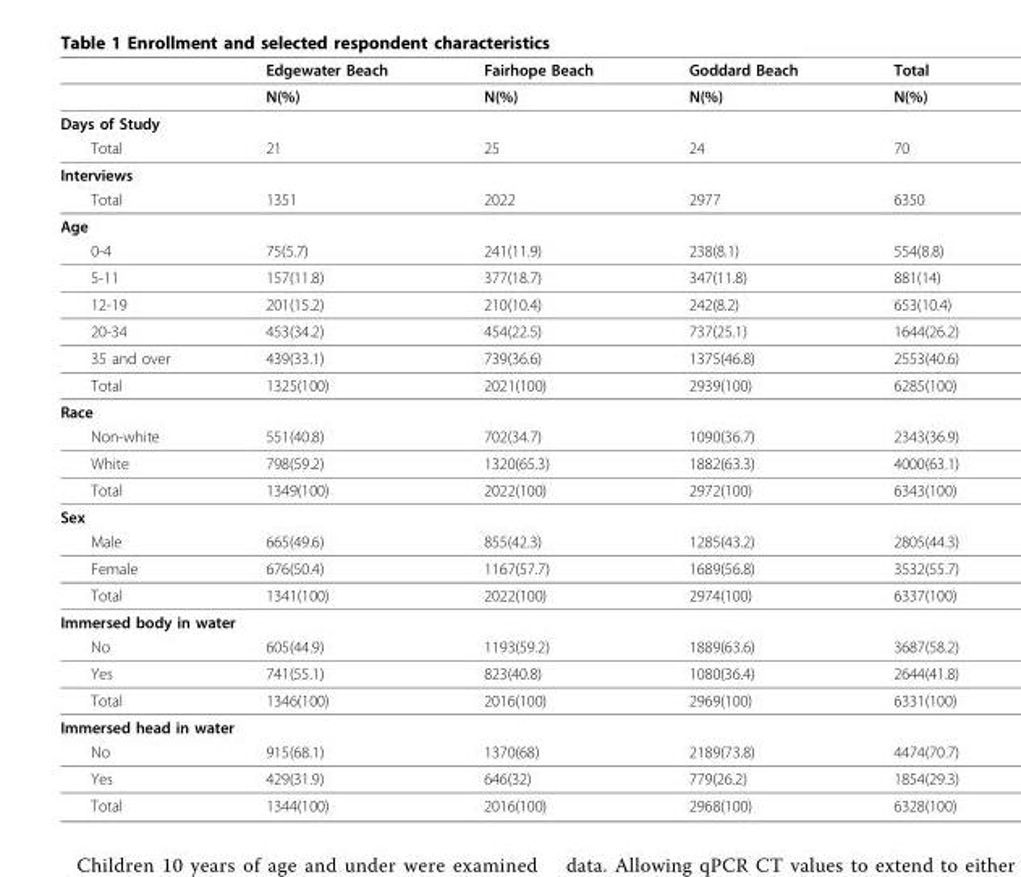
<table><thead><tr><td></td><td>Edgewater Beach</td><td>Fairhope Beach</td><td>Goddard Beach</td><td>Total</td></tr></thead><tbody><tr><td></td><td>N(%)</td><td>N(%)</td><td>N(%)</td><td>N(%)</td></tr><tr><td colspan="5">Days of Study</td></tr><tr><td>Total</td><td>21</td><td>25</td><td>24</td><td>70</td></tr><tr><td colspan="5">Interviews</td></tr><tr><td>Total</td><td>1351</td><td>2022</td><td>2977</td><td>6350</td></tr><tr><td colspan="5">Age</td></tr><tr><td>0-4</td><td>75(5.7)</td><td>241(11.9)</td><td>238(8.1)</td><td>554(8.8)</td></tr><tr><td>5-11</td><td>157(11.8)</td><td>377(18.7)</td><td>347(11.8)</td><td>881(14)</td></tr><tr><td>12-19</td><td>201(15.2)</td><td>210(10.4)</td><td>242(8.2)</td><td>653(10.4)</td></tr><tr><td>20-34</td><td>453(34.2)</td><td>454(22.5)</td><td>737(25.1)</td><td>1644(26.2)</td></tr><tr><td>35 and over</td><td>439(33.1)</td><td>739(36.6)</td><td>1375(46.8)</td><td>2553(40.6)</td></tr><tr><td>Total</td><td>1325(100)</td><td>2021(100)</td><td>2939(100)</td><td>6285(100)</td></tr><tr><td colspan="5">Race</td></tr><tr><td>Non-white</td><td>551(40.8)</td><td>702(34.7)</td><td>1090(36.7)</td><td>2343(36.9)</td></tr><tr><td>White</td><td>798(59.2)</td><td>1320(65.3)</td><td>1882(63.3)</td><td>4000(63.1)</td></tr><tr><td>Total</td><td>1349(100)</td><td>2022(100)</td><td>2972(100)</td><td>6343(100)</td></tr><tr><td colspan="5">Sex</td></tr><tr><td>Male</td><td>665(49.6)</td><td>855(42.3)</td><td>1285(43.2)</td><td>2805(44.3)</td></tr><tr><td>Female</td><td>676(50.4)</td><td>1167(57.7)</td><td>1689(56.8)</td><td>3532(55.7)</td></tr><tr><td>Total</td><td>1341(100)</td><td>2022(100)</td><td>2974(100)</td><td>6337(100)</td></tr><tr><td colspan="5">Immersed body in water</td></tr><tr><td>No</td><td>605(44.9)</td><td>1193(59.2)</td><td>1889(63.6)</td><td>3687(58.2)</td></tr><tr><td>Yes</td><td>741(55.1)</td><td>823(40.8)</td><td>1080(36.4)</td><td>2644(41.8)</td></tr><tr><td>Total</td><td>1346(100)</td><td>2016(100)</td><td>2969(100)</td><td>6331(100)</td></tr><tr><td colspan="5">Immersed head in water</td></tr><tr><td>No</td><td>915(68.1)</td><td>1370(68)</td><td>2189(73.8)</td><td>4474(70.7)</td></tr><tr><td>Yes</td><td>429(31.9)</td><td>646(32)</td><td>779(26.2)</td><td>1854(29.3)</td></tr><tr><td>Total</td><td>1344(100)</td><td>2016(100)</td><td>2968(100)</td><td>6328(100)</td></tr></tbody></table>